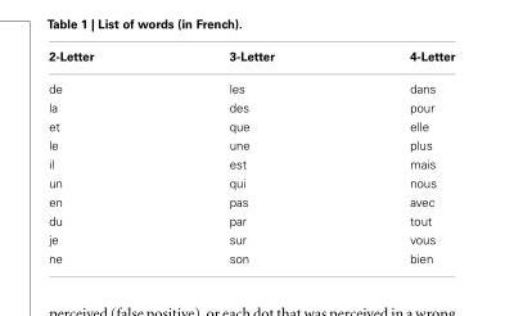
<table><thead><tr><td>2-Letter</td><td>3-Letter</td><td>4-Letter</td></tr></thead><tbody><tr><td>de</td><td>les</td><td>dans</td></tr><tr><td>la</td><td>des</td><td>pour</td></tr><tr><td>et</td><td>que</td><td>elle</td></tr><tr><td>le</td><td>une</td><td>plus</td></tr><tr><td>il</td><td>est</td><td>mais</td></tr><tr><td>un</td><td>qui</td><td>nous</td></tr><tr><td>en</td><td>pas</td><td>avec</td></tr><tr><td>du</td><td>par</td><td>tout</td></tr><tr><td>je</td><td>sur</td><td>vous</td></tr><tr><td>ne</td><td>son</td><td>bien</td></tr></tbody></table>